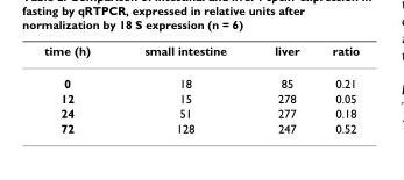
<table><thead><tr><td>time (h)</td><td>small intestine</td><td>liver</td><td>ratio</td></tr></thead><tbody><tr><td>0</td><td>18</td><td>85</td><td>0.21</td></tr><tr><td>12</td><td>15</td><td>278</td><td>0.05</td></tr><tr><td>24</td><td>51</td><td>277</td><td>0.18</td></tr><tr><td>72</td><td>128</td><td>247</td><td>0.52</td></tr></tbody></table>